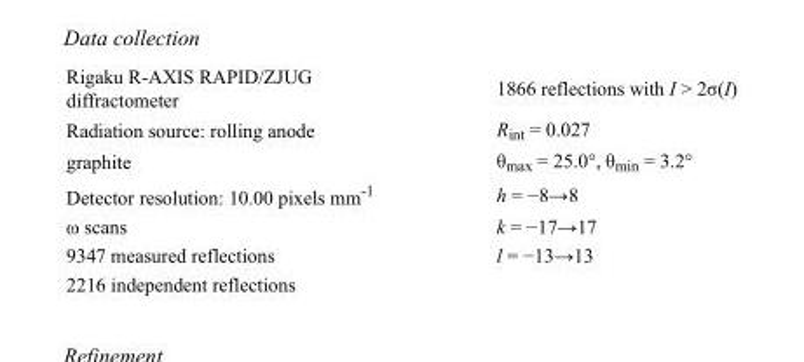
<table><tbody><tr><td>Rigaku R-AXIS RAPID/ZJUG diffractometer</td><td>1866 reflections with I &gt; 2σ(I)</td></tr><tr><td>Radiation source: rolling anode</td><td>R<sub>int</sub> = 0.027</td></tr><tr><td>graphite</td><td>θ<sub>max</sub> = 25.0°, θ<sub>min</sub> = 3.2°</td></tr><tr><td>Detector resolution: 10.00 pixels mm<sup>-1</sup></td><td>h = −8→8</td></tr><tr><td>ω scans</td><td>k = −17→17</td></tr><tr><td>9347 measured reflections</td><td>l = −13→13</td></tr><tr><td>2216 independent reflections</td><td></td></tr></tbody></table>